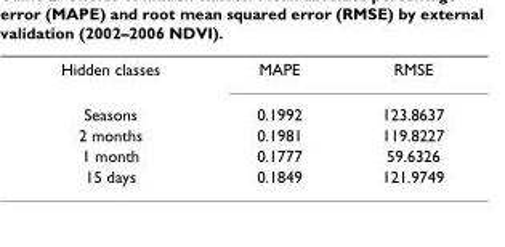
<table><tbody><tr><td>Hidden classes</td><td>MAPE</td><td>RMSE</td></tr><tr><td>Seasons</td><td>0.1992</td><td>123.8637</td></tr><tr><td>2 months</td><td>0.1981</td><td>119.8227</td></tr><tr><td>1 month</td><td>0.1777</td><td>59.6326</td></tr><tr><td>15 days</td><td>0.1849</td><td>121.9749</td></tr></tbody></table>